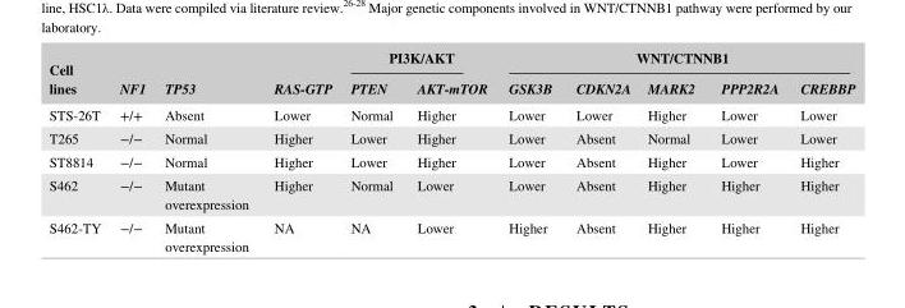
<table><thead><tr><td rowspan="2">Cell lines</td><td rowspan="2">NF1</td><td rowspan="2">TP53</td><td rowspan="2">RAS-GTP</td><td colspan="2">PI3K/AKT</td><td colspan="5">WNT/CTNNB1</td></tr><tr><td>PTEN</td><td>AKT-mTOR</td><td>GSK3B</td><td>CDKN2A</td><td>MARK2</td><td>PPP2R2A</td><td>CREBBP</td></tr></thead><tbody><tr><td>STS- 26T</td><td>+/+</td><td>Absent</td><td>Lower</td><td>Normal</td><td>Higher</td><td>Lower</td><td>Lower</td><td>Higher</td><td>Lower</td><td>Lower</td></tr><tr><td>T265</td><td>−/−</td><td>Normal</td><td>Higher</td><td>Lower</td><td>Higher</td><td>Lower</td><td>Absent</td><td>Normal</td><td>Lower</td><td>Lower</td></tr><tr><td>ST8814</td><td>−/−</td><td>Normal</td><td>Higher</td><td>Lower</td><td>Higher</td><td>Lower</td><td>Absent</td><td>Higher</td><td>Lower</td><td>Higher</td></tr><tr><td>S462</td><td>−/−</td><td>Mutant overexpression</td><td>Higher</td><td>Normal</td><td>Lower</td><td>Lower</td><td>Absent</td><td>Higher</td><td>Higher</td><td>Higher</td></tr><tr><td>S462- TY</td><td>−/−</td><td>Mutant overexpression</td><td>NA</td><td>NA</td><td>Lower</td><td>Higher</td><td>Absent</td><td>Higher</td><td>Higher</td><td>Higher</td></tr></tbody></table>